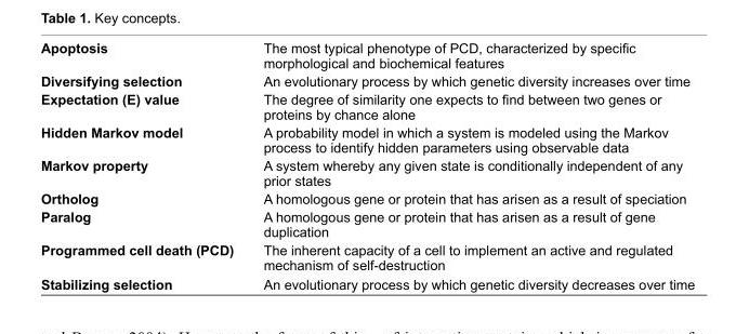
<table><tbody><tr><td>Apoptosis</td><td>The most typical phenotype of PCD, characterized by specifi c morphological and biochemical features</td></tr><tr><td>Diversifying selection</td><td>An evolutionary process by which genetic diversity increases over time</td></tr><tr><td>Expectation (E) value</td><td>The degree of similarity one expects to fi nd between two genes or proteins by chance alone</td></tr><tr><td>Hidden Markov model</td><td>A probability model in which a system is modeled using the Markov process to identify hidden parameters using observable data</td></tr><tr><td>Markov property</td><td>A system whereby any given state is conditionally independent of any prior states</td></tr><tr><td>Ortholog</td><td>A homologous gene or protein that has arisen as a result of speciation</td></tr><tr><td>Paralog</td><td>A homologous gene or protein that has arisen as a result of gene duplication</td></tr><tr><td>Programmed cell death (PCD)</td><td>The inherent capacity of a cell to implement an active and regulated mechanism of self-destruction</td></tr><tr><td>Stabilizing selection</td><td>An evolutionary process by which genetic diversity decreases over time</td></tr></tbody></table>